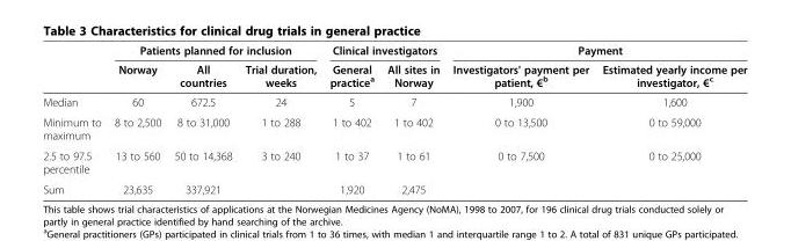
<table><thead><tr><td rowspan="2"></td><td colspan="3">Patients planned for inclusion</td><td colspan="2">Clinical investigators</td><td colspan="2">Payment</td></tr><tr><td>Norway</td><td>All countries</td><td>Trial duration, weeks</td><td>General practice<sup>a</sup></td><td>All sites in Norway</td><td>Investigators&#x27; payment per patient, €<sup>b</sup></td><td>Estimated yearly income per investigator, €<sup>c</sup></td></tr></thead><tbody><tr><td>Median</td><td>60</td><td>672.5</td><td>24</td><td>5</td><td>7</td><td>1,900</td><td>1,600</td></tr><tr><td>Minimum to maximum</td><td>8 to 2,500</td><td>8 to 31,000</td><td>1 to 288</td><td>1 to 402</td><td>1 to 402</td><td>0 to 13,500</td><td>0 to 59,000</td></tr><tr><td>2.5 to 97.5 percentile</td><td>13 to 560</td><td>50 to 14,368</td><td>3 to 240</td><td>1 to 37</td><td>1 to 61</td><td>0 to 7,500</td><td>0 to 25,000</td></tr><tr><td>Sum</td><td>23,635</td><td>337,921</td><td></td><td>1,920</td><td>2,475</td><td></td><td></td></tr></tbody></table>